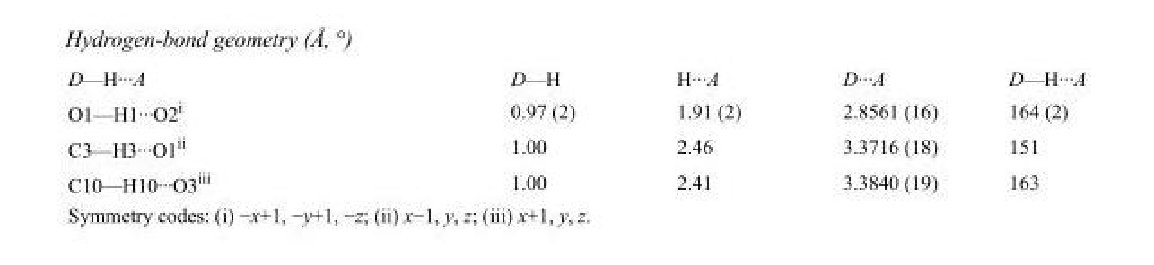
<table><tbody><tr><td>D—H···A</td><td>D—H</td><td>H···A</td><td>D···A</td><td>D—H···A</td></tr><tr><td>O1—H1···O2<sup>i</sup></td><td>0.97 (2)</td><td>1.91 (2)</td><td>2.8561 (16)</td><td>164 (2)</td></tr><tr><td>C3—H3···O1<sup>ii</sup></td><td>1.00</td><td>2.46</td><td>3.3716 (18)</td><td>151</td></tr><tr><td>C10—H10···O3<sup>iii</sup></td><td>1.00</td><td>2.41</td><td>3.3840 (19)</td><td>163</td></tr></tbody></table>